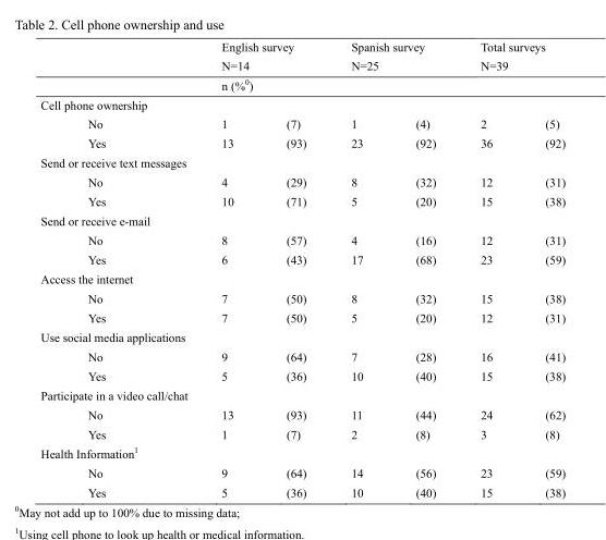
<table><thead><tr><td rowspan="2"></td><td colspan="2">English survey N=14</td><td colspan="2">Spanish survey N=25</td><td colspan="2">Total surveys N=39</td></tr><tr><td colspan="6">n (%<sup>0</sup>)</td></tr><tr><td colspan="2">Cell phone ownership</td><td rowspan="2">(7)</td><td rowspan="2">1</td><td rowspan="2">(4)</td><td rowspan="2">2</td><td rowspan="2">(5)</td></tr><tr><td>No</td><td>1</td></tr></thead><tbody><tr><td>Yes</td><td>13</td><td>(93)</td><td>23</td><td>(92)</td><td>36</td><td>(92)</td></tr><tr><td colspan="7">Send or receive text messages</td></tr><tr><td>No</td><td>4</td><td>(29)</td><td>8</td><td>(32)</td><td>12</td><td>(31)</td></tr><tr><td>Yes</td><td>10</td><td>(71)</td><td>5</td><td>(20)</td><td>15</td><td>(38)</td></tr><tr><td colspan="7">Send or receive e-mail</td></tr><tr><td>No</td><td>8</td><td>(57)</td><td>4</td><td>(16)</td><td>12</td><td>(31)</td></tr><tr><td>Yes</td><td>6</td><td>(43)</td><td>17</td><td>(68)</td><td>23</td><td>(59)</td></tr><tr><td colspan="7">Access the internet</td></tr><tr><td>No</td><td>7</td><td>(50)</td><td>8</td><td>(32)</td><td>15</td><td>(38)</td></tr><tr><td>Yes</td><td>7</td><td>(50)</td><td>5</td><td>(20)</td><td>12</td><td>(31)</td></tr><tr><td colspan="7">Use social media applications</td></tr><tr><td>No</td><td>9</td><td>(64)</td><td>7</td><td>(28)</td><td>16</td><td>(41)</td></tr><tr><td>Yes</td><td>5</td><td>(36)</td><td>10</td><td>(40)</td><td>15</td><td>(38)</td></tr><tr><td colspan="7">Participate in a video call/chat</td></tr><tr><td>No</td><td>13</td><td>(93)</td><td>11</td><td>(44)</td><td>24</td><td>(62)</td></tr><tr><td>Yes</td><td>1</td><td>(7)</td><td>2</td><td>(8)</td><td>3</td><td>(8)</td></tr><tr><td colspan="7">Health Information<sup>1</sup></td></tr><tr><td>No</td><td>9</td><td>(64)</td><td>14</td><td>(56)</td><td>23</td><td>(59)</td></tr><tr><td>Yes</td><td>5</td><td>(36)</td><td>10</td><td>(40)</td><td>15</td><td>(38)</td></tr></tbody></table>